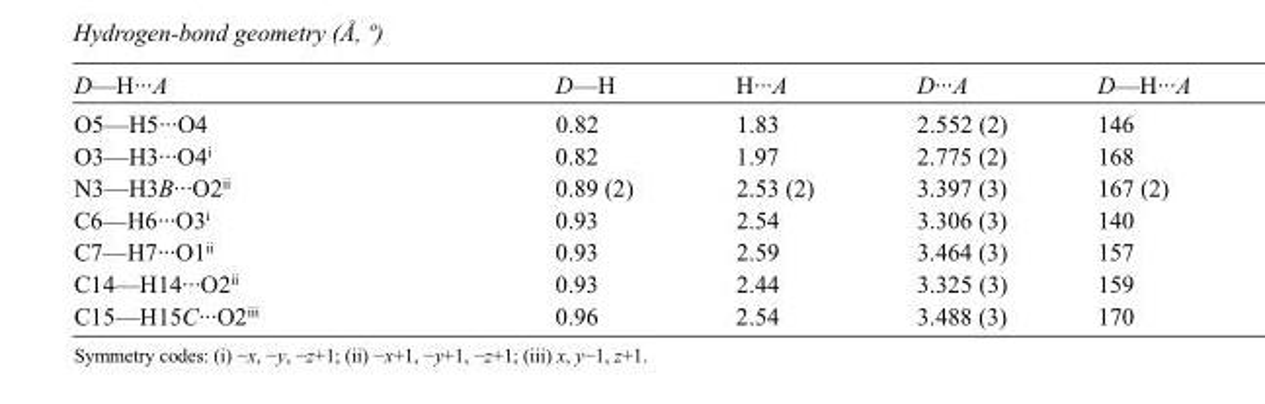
<table><tbody><tr><td>D—H···A</td><td>D—H</td><td>H···A</td><td>D···A</td><td>D—H···A</td></tr><tr><td>O5—H5···O4</td><td>0.82</td><td>1.83</td><td>2.552 (2)</td><td>146</td></tr><tr><td>O3—H3···O4<sup>i</sup></td><td>0.82</td><td>1.97</td><td>2.775 (2)</td><td>168</td></tr><tr><td>N3—H3B···O2<sup>ii</sup></td><td>0.89 (2)</td><td>2.53 (2)</td><td>3.397 (3)</td><td>167 (2)</td></tr><tr><td>C6—H6···O3<sup>i</sup></td><td>0.93</td><td>2.54</td><td>3.306 (3)</td><td>140</td></tr><tr><td>C7—H7···O1<sup>ii</sup></td><td>0.93</td><td>2.59</td><td>3.464 (3)</td><td>157</td></tr><tr><td>C14—H14···O2<sup>ii</sup></td><td>0.93</td><td>2.44</td><td>3.325 (3)</td><td>159</td></tr><tr><td>C15—H15C···O2<sup>iii</sup></td><td>0.96</td><td>2.54</td><td>3.488 (3)</td><td>170</td></tr></tbody></table>